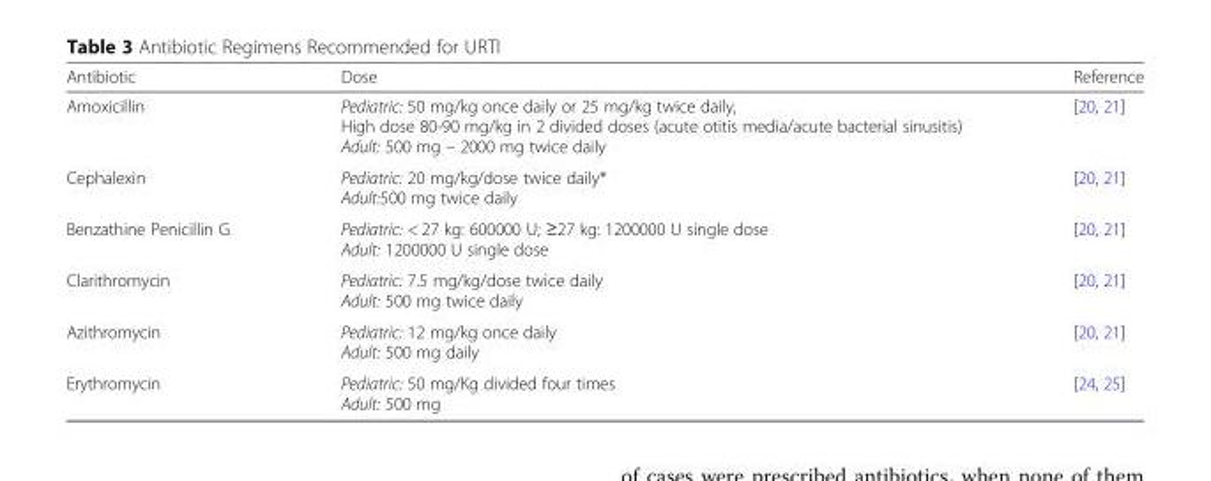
<table><thead><tr><td>Antibiotic</td><td>Dose</td><td>Reference</td></tr></thead><tbody><tr><td>Amoxicillin</td><td>Pediatric: 50 mg/kg once daily or 25 mg/kg twice daily, High dose 80-90 mg/kg in 2 divided doses (acute otitis media/acute bacterial sinusitis) Adult: 500 mg – 2000 mg twice daily</td><td>[20, 21]</td></tr><tr><td>Cephalexin</td><td>Pediatric: 20 mg/kg/dose twice daily* Adult:500 mg twice daily</td><td>[20, 21]</td></tr><tr><td>Benzathine Penicillin G</td><td>Pediatric: &lt; 27 kg: 600000 U; ≥27 kg: 1200000 U single dose Adult: 1200000 U single dose</td><td>[20, 21]</td></tr><tr><td>Clarithromycin</td><td>Pediatric: 7.5 mg/kg/dose twice daily Adult: 500 mg twice daily</td><td>[20, 21]</td></tr><tr><td>Azithromycin</td><td>Pediatric: 12 mg/kg once daily Adult: 500 mg daily</td><td>[20, 21]</td></tr><tr><td>Erythromycin</td><td>Pediatric: 50 mg/Kg divided four times Adult: 500 mg</td><td>[24, 25]</td></tr></tbody></table>